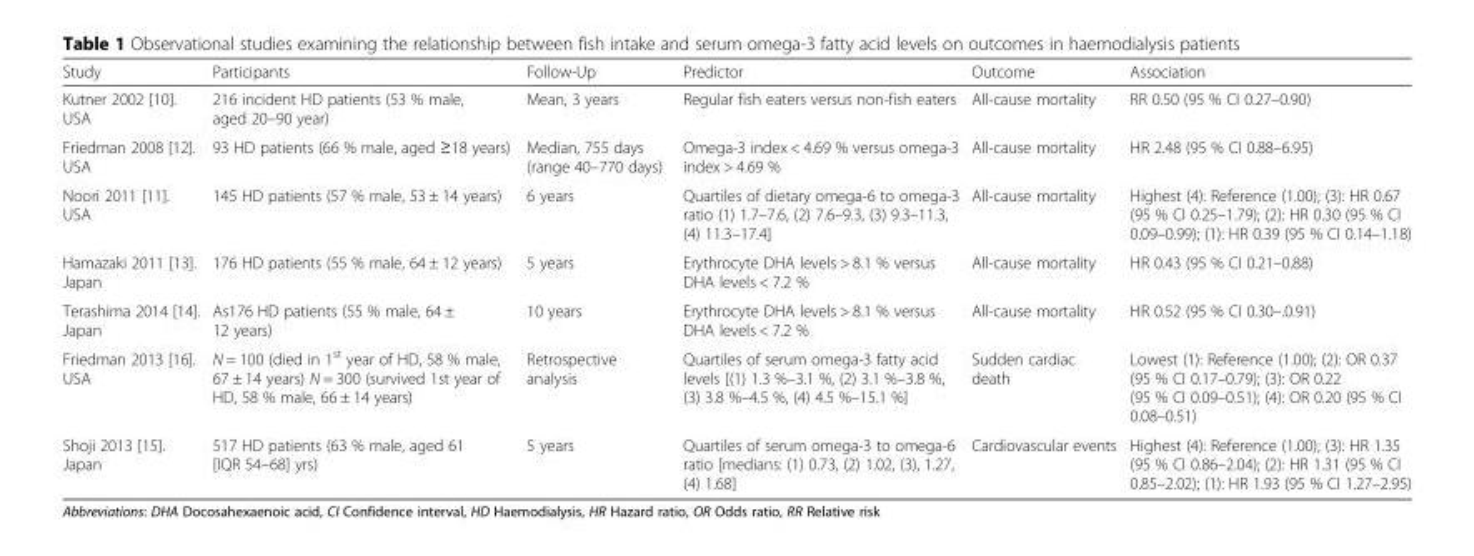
<table><thead><tr><td>Study</td><td>Participants</td><td>Follow-Up</td><td>Predictor</td><td>Outcome</td><td>Association</td></tr></thead><tbody><tr><td>Kutner 2002 [10]. USA</td><td>216 incident HD patients (53 % male, aged 20–90 year)</td><td>Mean, 3 years</td><td>Regular fish eaters versus non-fish eaters</td><td>All-cause mortality</td><td>RR 0.50 (95 % CI 0.27–0.90)</td></tr><tr><td>Friedman 2008 [12]. USA</td><td>93 HD patients (66 % male, aged ≥18 years)</td><td>Median, 755 days (range 40–770 days)</td><td>Omega-3 index &lt; 4.69 % versus omega-3 index &gt; 4.69 %</td><td>All-cause mortality</td><td>HR 2.48 (95 % CI 0.88–6.95)</td></tr><tr><td>Noori 2011 [11]. USA</td><td>145 HD patients (57 % male, 53 ± 14 years)</td><td>6 years</td><td>Quartiles of dietary omega-6 to omega-3 ratio (1) 1.7–7.6, (2) 7.6–9.3, (3) 9.3–11.3, (4) 11.3–17.4]</td><td>All-cause mortality</td><td>Highest (4): Reference (1.00); (3): HR 0.67 (95 % CI 0.25–1.79); (2): HR 0.30 (95 % CI 0.09–0.99); (1): HR 0.39 (95 % CI 0.14–1.18)</td></tr><tr><td>Hamazaki 2011 [13]. Japan</td><td>176 HD patients (55 % male, 64 ± 12 years)</td><td>5 years</td><td>Erythrocyte DHA levels &gt; 8.1 % versus DHA levels &lt; 7.2 %</td><td>All-cause mortality</td><td>HR 0.43 (95 % CI 0.21–0.88)</td></tr><tr><td>Terashima 2014 [14]. Japan</td><td>As176 HD patients (55 % male, 64 ± 12 years)</td><td>10 years</td><td>Erythrocyte DHA levels &gt; 8.1 % versus DHA levels &lt; 7.2 %</td><td>All-cause mortality</td><td>HR 0.52 (95 % CI 0.30–.0.91)</td></tr><tr><td>Friedman 2013 [16]. USA</td><td>N = 100 (died in 1<sup>st</sup> year of HD, 58 % male, 67 ± 14 years) N = 300 (survived 1st year of HD, 58 % male, 66 ± 14 years)</td><td>Retrospective analysis</td><td>Quartiles of serum omega-3 fatty acid levels [(1) 1.3 %–3.1 %, (2) 3.1 %–3.8 %, (3) 3.8 %–4.5 %, (4) 4.5 %–15.1 %]</td><td>Sudden cardiac death</td><td>Lowest (1): Reference (1.00); (2): OR 0.37 (95 % CI 0.17–0.79); (3): OR 0.22 (95 % CI 0.09–0.51); (4): OR 0.20 (95 % CI 0.08–0.51)</td></tr><tr><td>Shoji 2013 [15]. Japan</td><td>517 HD patients (63 % male, aged 61 [IQR 54–68] yrs)</td><td>5 years</td><td>Quartiles of serum omega-3 to omega-6 ratio [medians: (1) 0.73, (2) 1.02, (3), 1.27, (4) 1.68]</td><td>Cardiovascular events</td><td>Highest (4): Reference (1.00); (3): HR 1.35 (95 % CI 0.86–2.04); (2): HR 1.31 (95 % CI 0.85–2.02); (1): HR 1.93 (95 % CI 1.27–2.95)</td></tr></tbody></table>